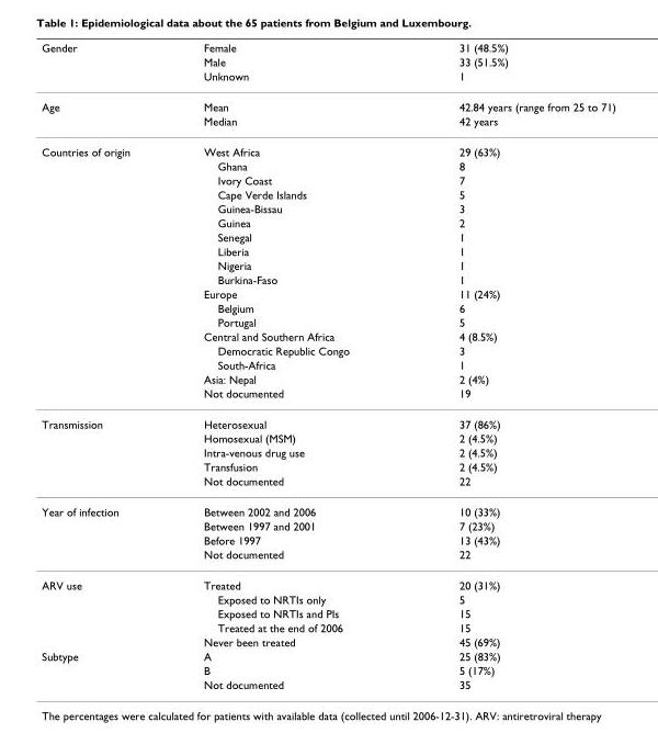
<table><thead><tr><td rowspan="3">Gender</td><td rowspan="3">Female Male Unknown</td><td rowspan="3">31 (48.5%) 33 (51.5%) 1</td></tr><tr></tr><tr></tr></thead><tbody><tr><td rowspan="2">Age</td><td>Mean</td><td>42.84 years (range from 25 to 71)</td></tr><tr><td>Median</td><td>42 years</td></tr><tr><td rowspan="18">Countries of origin</td><td>West Africa</td><td>29 (63%)</td></tr><tr><td>Ghana</td><td>8</td></tr><tr><td>Ivory Coast</td><td>7</td></tr><tr><td>Cape Verde Islands</td><td>5</td></tr><tr><td>Guinea-Bissau</td><td>3</td></tr><tr><td>Guinea</td><td>2</td></tr><tr><td>Senegal</td><td>1</td></tr><tr><td>Liberia</td><td>1</td></tr><tr><td>Nigeria</td><td>1</td></tr><tr><td>Burkina-Faso</td><td>1</td></tr><tr><td>Europe</td><td>11 (24%)</td></tr><tr><td>Belgium</td><td>6</td></tr><tr><td>Portugal</td><td>5</td></tr><tr><td>Central and Southern Africa</td><td>4 (8.5%)</td></tr><tr><td>Democratic Republic Congo</td><td>3</td></tr><tr><td>South-Africa</td><td>1</td></tr><tr><td>Asia: Nepal</td><td>2 (4%)</td></tr><tr><td>Not documented</td><td>19</td></tr><tr><td rowspan="5">Transmission</td><td>Heterosexual</td><td>37 (86%)</td></tr><tr><td>Homosexual (MSM)</td><td>2 (4.5%)</td></tr><tr><td>Intra-venous drug use</td><td>2 (4.5%)</td></tr><tr><td>Transfusion</td><td>2 (4.5%)</td></tr><tr><td>Not documented</td><td>22</td></tr><tr><td rowspan="4">Year of infection</td><td>Between 2002 and 2006</td><td>10 (33%)</td></tr><tr><td>Between 1997 and 2001</td><td>7 (23%)</td></tr><tr><td>Before 1997</td><td>13 (43%)</td></tr><tr><td>Not documented</td><td>22</td></tr><tr><td rowspan="5">ARV use</td><td>Treated</td><td>20 (31%)</td></tr><tr><td>Exposed to NRTIs only</td><td>5</td></tr><tr><td>Exposed to NRTIs and PIs</td><td>15</td></tr><tr><td>Treated at the end of 2006</td><td>15</td></tr><tr><td>Never been treated</td><td>45 (69%)</td></tr><tr><td rowspan="3">Subtype</td><td>A</td><td>25 (83%)</td></tr><tr><td>B</td><td>5 (17%)</td></tr><tr><td>Not documented</td><td>35</td></tr></tbody></table>